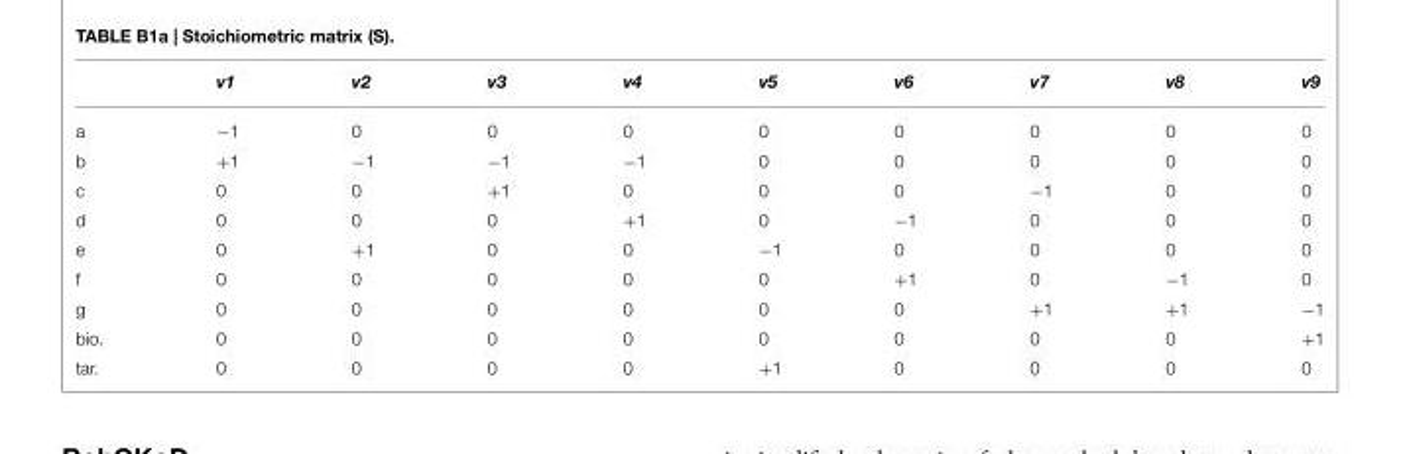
<table><thead><tr><td></td><td>v1</td><td>v2</td><td>v3</td><td>v4</td><td>v5</td><td>v6</td><td>v7</td><td>v8</td><td>v9</td></tr></thead><tbody><tr><td>a</td><td>−1</td><td>0</td><td>0</td><td>0</td><td>0</td><td>0</td><td>0</td><td>0</td><td>0</td></tr><tr><td>b</td><td>+1</td><td>−1</td><td>−1</td><td>−1</td><td>0</td><td>0</td><td>0</td><td>0</td><td>0</td></tr><tr><td>c</td><td>0</td><td>0</td><td>+1</td><td>0</td><td>0</td><td>0</td><td>−1</td><td>0</td><td>0</td></tr><tr><td>d</td><td>0</td><td>0</td><td>0</td><td>+1</td><td>0</td><td>−1</td><td>0</td><td>0</td><td>0</td></tr><tr><td>e</td><td>0</td><td>+1</td><td>0</td><td>0</td><td>−1</td><td>0</td><td>0</td><td>0</td><td>0</td></tr><tr><td>f</td><td>0</td><td>0</td><td>0</td><td>0</td><td>0</td><td>+1</td><td>0</td><td>−1</td><td>0</td></tr><tr><td>g</td><td>0</td><td>0</td><td>0</td><td>0</td><td>0</td><td>0</td><td>+1</td><td>+1</td><td>−1</td></tr><tr><td>bio.</td><td>0</td><td>0</td><td>0</td><td>0</td><td>0</td><td>0</td><td>0</td><td>0</td><td>+1</td></tr><tr><td>tar.</td><td>0</td><td>0</td><td>0</td><td>0</td><td>+1</td><td>0</td><td>0</td><td>0</td><td>0</td></tr></tbody></table>